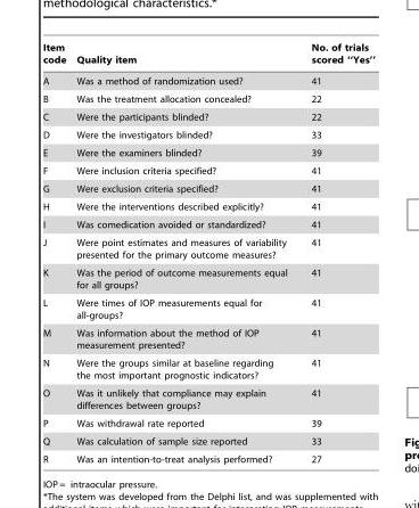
<table><thead><tr><td>Item code</td><td>Quality item</td><td>No. of trials scored ‘‘Yes’’</td></tr></thead><tbody><tr><td>A</td><td>Was a method of randomization used?</td><td>41</td></tr><tr><td>B</td><td>Was the treatment allocation concealed?</td><td>22</td></tr><tr><td>C</td><td>Were the participants blinded?</td><td>22</td></tr><tr><td>D</td><td>Were the investigators blinded?</td><td>33</td></tr><tr><td>E</td><td>Were the examiners blinded?</td><td>39</td></tr><tr><td>F</td><td>Were inclusion criteria specified?</td><td>41</td></tr><tr><td>G</td><td>Were exclusion criteria specified?</td><td>41</td></tr><tr><td>H</td><td>Were the interventions described explicitly?</td><td>41</td></tr><tr><td>I</td><td>Was comedication avoided or standardized?</td><td>41</td></tr><tr><td>J</td><td>Were point estimates and measures of variability presented for the primary outcome measures?</td><td>41</td></tr><tr><td>K</td><td>Was the period of outcome measurements equal for all groups?</td><td>41</td></tr><tr><td>L</td><td>Were times of IOP measurements equal for all-groups?</td><td>41</td></tr><tr><td>M</td><td>Was information about the method of IOP measurement presented?</td><td>41</td></tr><tr><td>N</td><td>Were the groups similar at baseline regarding the most important prognostic indicators?</td><td>41</td></tr><tr><td>O</td><td>Was it unlikely that compliance may explain differences between groups?</td><td>41</td></tr><tr><td>P</td><td>Was withdrawal rate reported</td><td>39</td></tr><tr><td>Q</td><td>Was calculation of sample size reported</td><td>33</td></tr><tr><td>R</td><td>Was an intention-to-treat analysis performed?</td><td>27</td></tr></tbody></table>